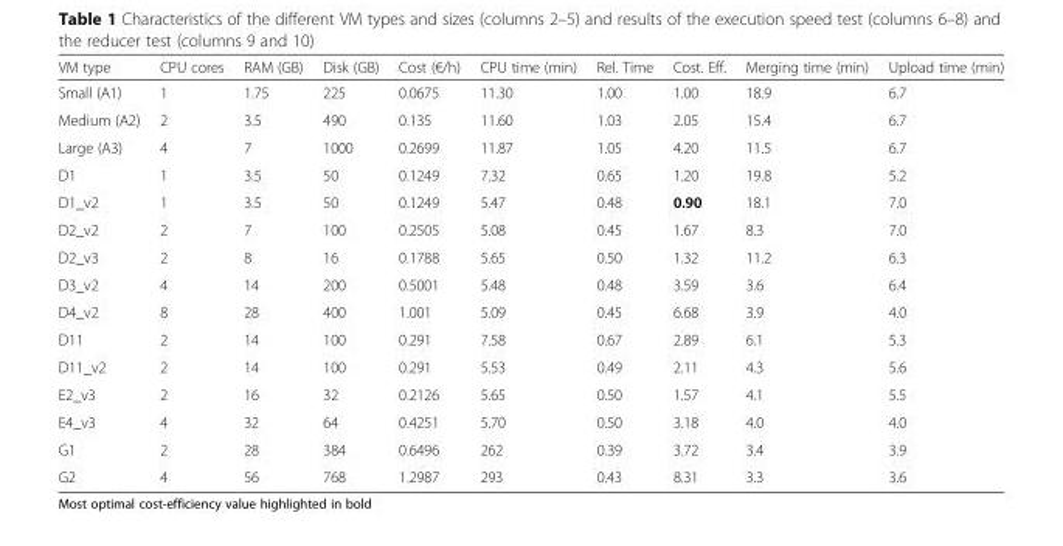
<table><thead><tr><td>VM type</td><td>CPU cores</td><td>RAM (GB)</td><td>Disk (GB)</td><td>Cost (€/h)</td><td>CPU time (min)</td><td>Rel. Time</td><td>Cost. Eff.</td><td>Merging time (min)</td><td>Upload time (min)</td></tr></thead><tbody><tr><td>Small (A1)</td><td>1</td><td>1.75</td><td>225</td><td>0.0675</td><td>11.30</td><td>1.00</td><td>1.00</td><td>18.9</td><td>6.7</td></tr><tr><td>Medium (A2)</td><td>2</td><td>3.5</td><td>490</td><td>0.135</td><td>11.60</td><td>1.03</td><td>2.05</td><td>15.4</td><td>6.7</td></tr><tr><td>Large (A3)</td><td>4</td><td>7</td><td>1000</td><td>0.2699</td><td>11.87</td><td>1.05</td><td>4.20</td><td>11.5</td><td>6.7</td></tr><tr><td>D1</td><td>1</td><td>3.5</td><td>50</td><td>0.1249</td><td>7.32</td><td>0.65</td><td>1.20</td><td>19.8</td><td>5.2</td></tr><tr><td>D1_v2</td><td>1</td><td>3.5</td><td>50</td><td>0.1249</td><td>5.47</td><td>0.48</td><td>0.90</td><td>18.1</td><td>7.0</td></tr><tr><td>D2_v2</td><td>2</td><td>7</td><td>100</td><td>0.2505</td><td>5.08</td><td>0.45</td><td>1.67</td><td>8.3</td><td>7.0</td></tr><tr><td>D2_v3</td><td>2</td><td>8</td><td>16</td><td>0.1788</td><td>5.65</td><td>0.50</td><td>1.32</td><td>11.2</td><td>6.3</td></tr><tr><td>D3_v2</td><td>4</td><td>14</td><td>200</td><td>0.5001</td><td>5.48</td><td>0.48</td><td>3.59</td><td>3.6</td><td>6.4</td></tr><tr><td>D4_v2</td><td>8</td><td>28</td><td>400</td><td>1.001</td><td>5.09</td><td>0.45</td><td>6.68</td><td>3.9</td><td>4.0</td></tr><tr><td>D11</td><td>2</td><td>14</td><td>100</td><td>0.291</td><td>7.58</td><td>0.67</td><td>2.89</td><td>6.1</td><td>5.3</td></tr><tr><td>D11_v2</td><td>2</td><td>14</td><td>100</td><td>0.291</td><td>5.53</td><td>0.49</td><td>2.11</td><td>4.3</td><td>5.6</td></tr><tr><td>E2_v3</td><td>2</td><td>16</td><td>32</td><td>0.2126</td><td>5.65</td><td>0.50</td><td>1.57</td><td>4.1</td><td>5.5</td></tr><tr><td>E4_v3</td><td>4</td><td>32</td><td>64</td><td>0.4251</td><td>5.70</td><td>0.50</td><td>3.18</td><td>4.0</td><td>4.0</td></tr><tr><td>G1</td><td>2</td><td>28</td><td>384</td><td>0.6496</td><td>262</td><td>0.39</td><td>3.72</td><td>3.4</td><td>3.9</td></tr><tr><td>G2</td><td>4</td><td>56</td><td>768</td><td>1.2987</td><td>293</td><td>0.43</td><td>8.31</td><td>3.3</td><td>3.6</td></tr></tbody></table>